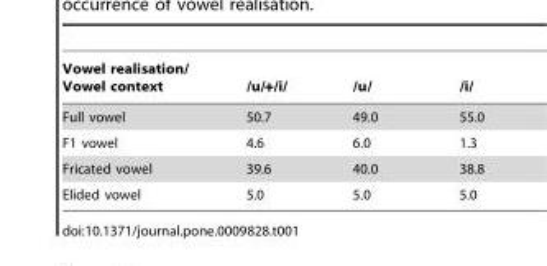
<table><thead><tr><td>Vowel realisation/ Vowel context</td><td>/u/+/i/</td><td>/u/</td><td>/i/</td></tr></thead><tbody><tr><td>Full vowel</td><td>50.7</td><td>49.0</td><td>55.0</td></tr><tr><td>F1 vowel</td><td>4.6</td><td>6.0</td><td>1.3</td></tr><tr><td>Fricated vowel</td><td>39.6</td><td>40.0</td><td>38.8</td></tr><tr><td>Elided vowel</td><td>5.0</td><td>5.0</td><td>5.0</td></tr></tbody></table>